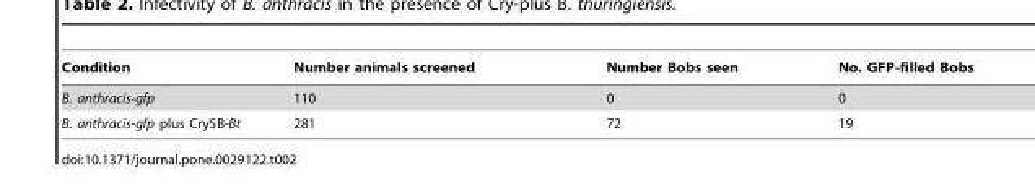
<table><thead><tr><td>Condition</td><td>Number animals screened</td><td>Number Bobs seen</td><td>No. GFP-filled Bobs</td></tr></thead><tbody><tr><td>B. anthracis-gfp</td><td>110</td><td>0</td><td>0</td></tr><tr><td>B. anthracis-gfp plus Cry5B-Bt</td><td>281</td><td>72</td><td>19</td></tr></tbody></table>